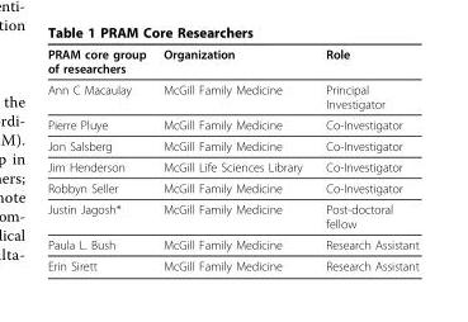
<table><thead><tr><td>PRAM core group of researchers</td><td>Organization</td><td>Role</td></tr></thead><tbody><tr><td>Ann C Macaulay</td><td>McGill Family Medicine</td><td>Principal Investigator</td></tr><tr><td>Pierre Pluye</td><td>McGill Family Medicine</td><td>Co-Investigator</td></tr><tr><td>Jon Salsberg</td><td>McGill Family Medicine</td><td>Co-Investigator</td></tr><tr><td>Jim Henderson</td><td>McGill Life Sciences Library</td><td>Co-Investigator</td></tr><tr><td>Robbyn Seller</td><td>McGill Family Medicine</td><td>Co-Investigator</td></tr><tr><td>Justin Jagosh*</td><td>McGill Family Medicine</td><td>Post-doctoral fellow</td></tr><tr><td>Paula L. Bush</td><td>McGill Family Medicine</td><td>Research Assistant</td></tr><tr><td>Erin Sirett</td><td>McGill Family Medicine</td><td>Research Assistant</td></tr></tbody></table>